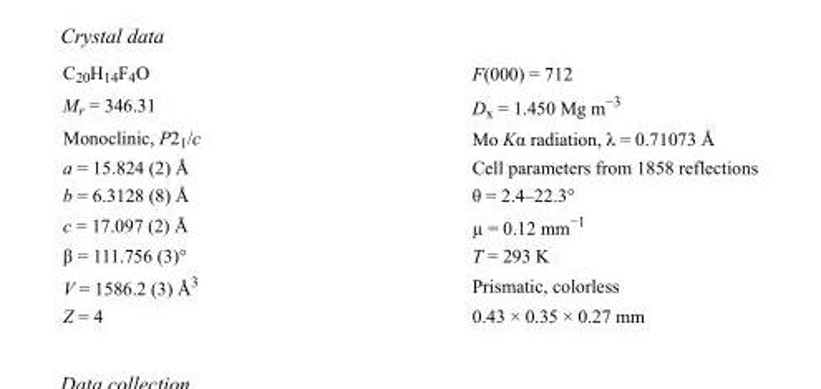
<table><tbody><tr><td>C<sub>20</sub>H<sub>14</sub>F<sub>4</sub>O</td><td>F(000) = 712</td></tr><tr><td>M<sub>r</sub> = 346.31</td><td>D<sub>x</sub> = 1.450 Mg m<sup>−3</sup></td></tr><tr><td>Monoclinic, P2<sub>1</sub>/c</td><td>Mo Kα radiation, λ = 0.71073 Å</td></tr><tr><td>a = 15.824 (2) Å</td><td>Cell parameters from 1858 reflections</td></tr><tr><td>b = 6.3128 (8) Å</td><td>θ = 2.4–22.3°</td></tr><tr><td>c = 17.097 (2) Å</td><td>µ = 0.12 mm<sup>−1</sup></td></tr><tr><td>β = 111.756 (3)°</td><td>T = 293 K</td></tr><tr><td>V = 1586.2 (3) Å<sup>3</sup></td><td>Prismatic, colorless</td></tr><tr><td>Z = 4</td><td>0.43 × 0.35 × 0.27 mm</td></tr></tbody></table>